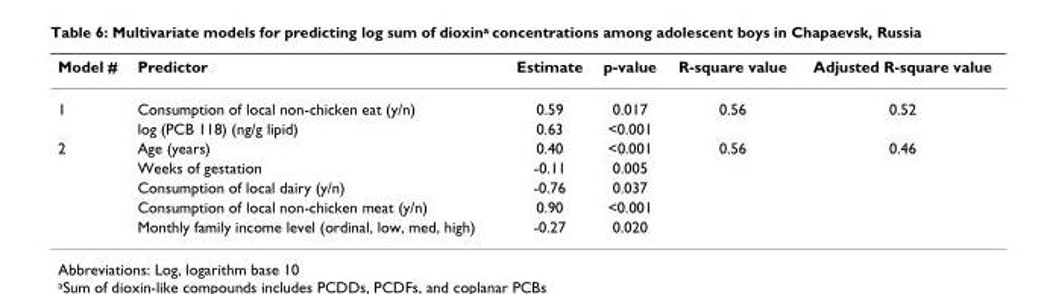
<table><thead><tr><td>Model #</td><td>Predictor</td><td>Estimate</td><td>p-value</td><td>R-square value</td><td>Adjusted R-square value</td></tr></thead><tbody><tr><td rowspan="2">1</td><td>Consumption of local non-chicken eat (y/n)</td><td>0.59</td><td>0.017</td><td>0.56</td><td>0.52</td></tr><tr><td>log (PCB 118) (ng/g lipid)</td><td>0.63</td><td>&lt;0.001</td><td></td><td></td></tr><tr><td rowspan="5">2</td><td>Age (years)</td><td>0.40</td><td>&lt;0.001</td><td>0.56</td><td>0.46</td></tr><tr><td>Weeks of gestation</td><td>-0.11</td><td>0.005</td><td></td><td></td></tr><tr><td>Consumption of local dairy (y/n)</td><td>-0.76</td><td>0.037</td><td></td><td></td></tr><tr><td>Consumption of local non-chicken meat (y/n)</td><td>0.90</td><td>&lt;0.001</td><td></td><td></td></tr><tr><td>Monthly family income level (ordinal, low, med, high)</td><td>-0.27</td><td>0.020</td><td></td><td></td></tr></tbody></table>